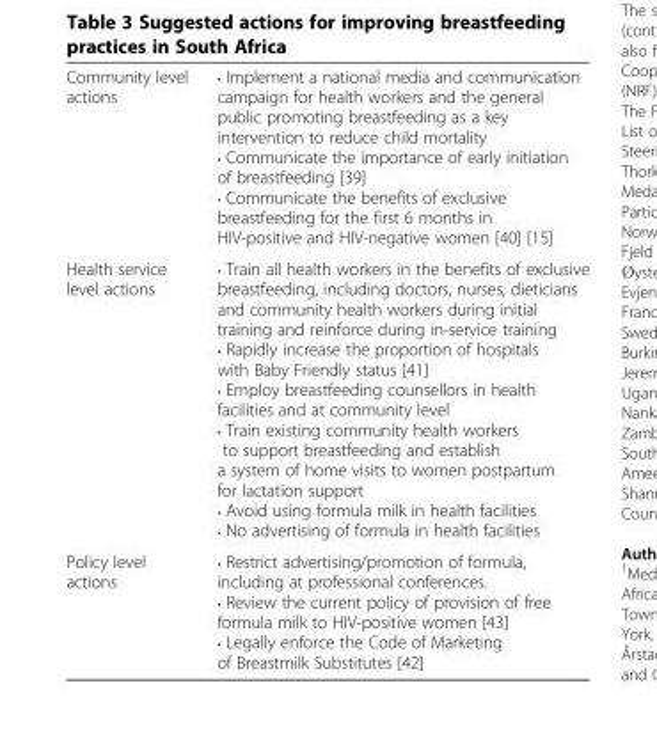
<table><tbody><tr><td>Community level actions</td><td>• Implement a national media and communication campaign for health workers and the general public promoting breastfeeding as a key intervention to reduce child mortality • Communicate the importance of early initiation of breastfeeding [39] • Communicate the benefits of exclusive breastfeeding for the first 6 months in HIV-positive and HIV-negative women [40] [15]</td></tr><tr><td>Health service level actions</td><td>• Train all health workers in the benefits of exclusive breastfeeding, including doctors, nurses, dieticians and community health workers during initial training and reinforce during in-service training • Rapidly increase the proportion of hospitals with Baby Friendly status [41] • Employ breastfeeding counsellors in health facilities and at community level • Train existing community health workers to support breastfeeding and establish a system of home visits to women postpartum for lactation support • Avoid using formula milk in health facilities • No advertising of formula in health facilities</td></tr><tr><td>Policy level actions</td><td>• Restrict advertising/promotion of formula, including at professional conferences. • Review the current policy of provision of free formula milk to HIV-positive women [43] • Legally enforce the Code of Marketing of Breastmilk Substitutes [42]</td></tr></tbody></table>